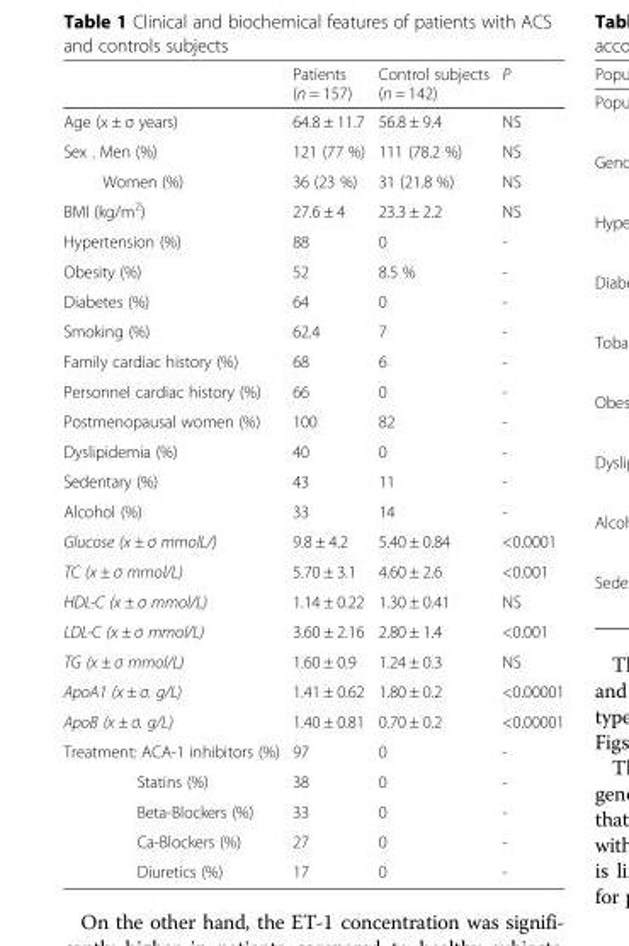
<table><thead><tr><td></td><td>Patients (n = 157)</td><td>Control subjects (n = 142)</td><td>P</td></tr></thead><tbody><tr><td>Age (x ± σ years)</td><td>64.8 ± 11.7</td><td>56.8 ± 9.4</td><td>NS</td></tr><tr><td>Sex . Men (%)</td><td>121 (77 %)</td><td>111 (78.2 %)</td><td>NS</td></tr><tr><td>Women (%)</td><td>36 (23 %)</td><td>31 (21.8 %)</td><td>NS</td></tr><tr><td>BMI (kg/m<sup>2</sup>)</td><td>27.6 ± 4</td><td>23.3 ± 2.2</td><td>NS</td></tr><tr><td>Hypertension (%)</td><td>88</td><td>0</td><td>-</td></tr><tr><td>Obesity (%)</td><td>52</td><td>8.5 %</td><td>-</td></tr><tr><td>Diabetes (%)</td><td>64</td><td>0</td><td>-</td></tr><tr><td>Smoking (%)</td><td>62.4</td><td>7</td><td>-</td></tr><tr><td>Family cardiac history (%)</td><td>68</td><td>6</td><td>-</td></tr><tr><td>Personnel cardiac history (%)</td><td>66</td><td>0</td><td>-</td></tr><tr><td>Postmenopausal women (%)</td><td>100</td><td>82</td><td>-</td></tr><tr><td>Dyslipidemia (%)</td><td>40</td><td>0</td><td>-</td></tr><tr><td>Sedentary (%)</td><td>43</td><td>11</td><td>-</td></tr><tr><td>Alcohol (%)</td><td>33</td><td>14</td><td>-</td></tr><tr><td>Glucose (x ± σ mmolL/)</td><td>9.8 ± 4.2</td><td>5.40 ± 0.84</td><td>&lt;0.0001</td></tr><tr><td>TC (x ± σ mmol/L)</td><td>5.70 ± 3.1</td><td>4.60 ± 2.6</td><td>&lt;0.001</td></tr><tr><td>HDL-C (x ± σ mmol/L)</td><td>1.14 ± 0.22</td><td>1.30 ± 0.41</td><td>NS</td></tr><tr><td>LDL-C (x ± σ mmol/L)</td><td>3.60 ± 2.16</td><td>2.80 ± 1.4</td><td>&lt;0.001</td></tr><tr><td>TG (x ± σ mmol/L)</td><td>1.60 ± 0.9</td><td>1.24 ± 0.3</td><td>NS</td></tr><tr><td>ApoA1 (x ± σ. g/L)</td><td>1.41 ± 0.62</td><td>1.80 ± 0.2</td><td>&lt;0.00001</td></tr><tr><td>ApoB (x ± σ. g/L)</td><td>1.40 ± 0.81</td><td>0.70 ± 0.2</td><td>&lt;0.00001</td></tr><tr><td>Treatment: ACA-1 inhibitors (%)</td><td>97</td><td>0</td><td>-</td></tr><tr><td>Statins (%)</td><td>38</td><td>0</td><td>-</td></tr><tr><td>Beta-Blockers (%)</td><td>33</td><td>0</td><td>-</td></tr><tr><td>Ca-Blockers (%)</td><td>27</td><td>0</td><td>-</td></tr><tr><td>Diuretics (%)</td><td>17</td><td>0</td><td>-</td></tr></tbody></table>